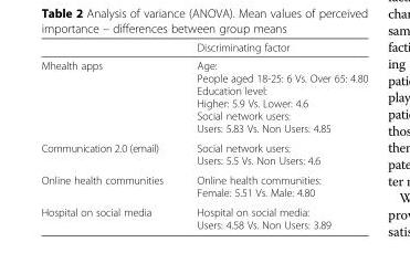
<table><thead><tr><td></td><td>Discriminating factor</td></tr></thead><tbody><tr><td>Mhealth apps</td><td>Age: People aged 18-25: 6 Vs. Over 65: 4.80 Education level: Higher: 5.9 Vs. Lower: 4.6 Social network users: Users: 5.83 Vs. Non Users: 4.85</td></tr><tr><td>Communication 2.0 (email)</td><td>Social network users: Users: 5.5 Vs. Non Users: 4.6</td></tr><tr><td>Online health communities</td><td>Online health communities: Female: 5.51 Vs. Male: 4.80</td></tr><tr><td>Hospital on social media</td><td>Hospital on social media: Users: 4.58 Vs. Non Users: 3.89</td></tr></tbody></table>